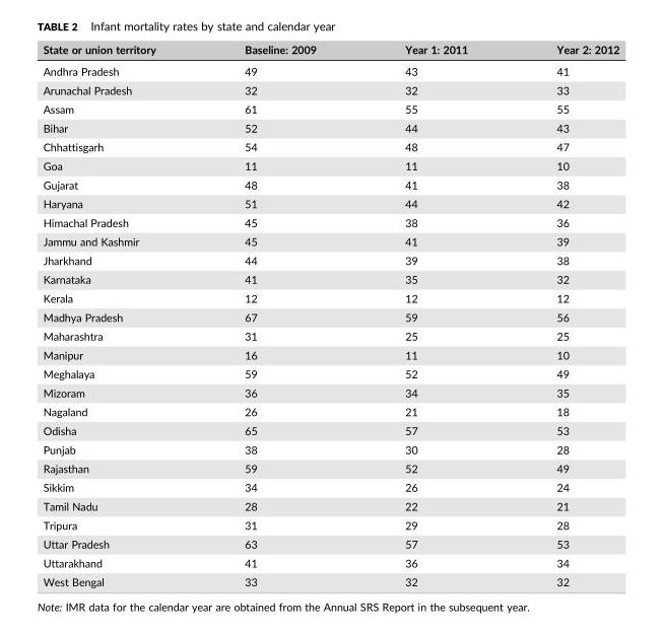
<table><thead><tr><td>State or union territory</td><td>Baseline: 2009</td><td>Year 1: 2011</td><td>Year 2: 2012</td></tr></thead><tbody><tr><td>Andhra Pradesh</td><td>49</td><td>43</td><td>41</td></tr><tr><td>Arunachal Pradesh</td><td>32</td><td>32</td><td>33</td></tr><tr><td>Assam</td><td>61</td><td>55</td><td>55</td></tr><tr><td>Bihar</td><td>52</td><td>44</td><td>43</td></tr><tr><td>Chhattisgarh</td><td>54</td><td>48</td><td>47</td></tr><tr><td>Goa</td><td>11</td><td>11</td><td>10</td></tr><tr><td>Gujarat</td><td>48</td><td>41</td><td>38</td></tr><tr><td>Haryana</td><td>51</td><td>44</td><td>42</td></tr><tr><td>Himachal Pradesh</td><td>45</td><td>38</td><td>36</td></tr><tr><td>Jammu and Kashmir</td><td>45</td><td>41</td><td>39</td></tr><tr><td>Jharkhand</td><td>44</td><td>39</td><td>38</td></tr><tr><td>Karnataka</td><td>41</td><td>35</td><td>32</td></tr><tr><td>Kerala</td><td>12</td><td>12</td><td>12</td></tr><tr><td>Madhya Pradesh</td><td>67</td><td>59</td><td>56</td></tr><tr><td>Maharashtra</td><td>31</td><td>25</td><td>25</td></tr><tr><td>Manipur</td><td>16</td><td>11</td><td>10</td></tr><tr><td>Meghalaya</td><td>59</td><td>52</td><td>49</td></tr><tr><td>Mizoram</td><td>36</td><td>34</td><td>35</td></tr><tr><td>Nagaland</td><td>26</td><td>21</td><td>18</td></tr><tr><td>Odisha</td><td>65</td><td>57</td><td>53</td></tr><tr><td>Punjab</td><td>38</td><td>30</td><td>28</td></tr><tr><td>Rajasthan</td><td>59</td><td>52</td><td>49</td></tr><tr><td>Sikkim</td><td>34</td><td>26</td><td>24</td></tr><tr><td>Tamil Nadu</td><td>28</td><td>22</td><td>21</td></tr><tr><td>Tripura</td><td>31</td><td>29</td><td>28</td></tr><tr><td>Uttar Pradesh</td><td>63</td><td>57</td><td>53</td></tr><tr><td>Uttarakhand</td><td>41</td><td>36</td><td>34</td></tr><tr><td>West Bengal</td><td>33</td><td>32</td><td>32</td></tr></tbody></table>